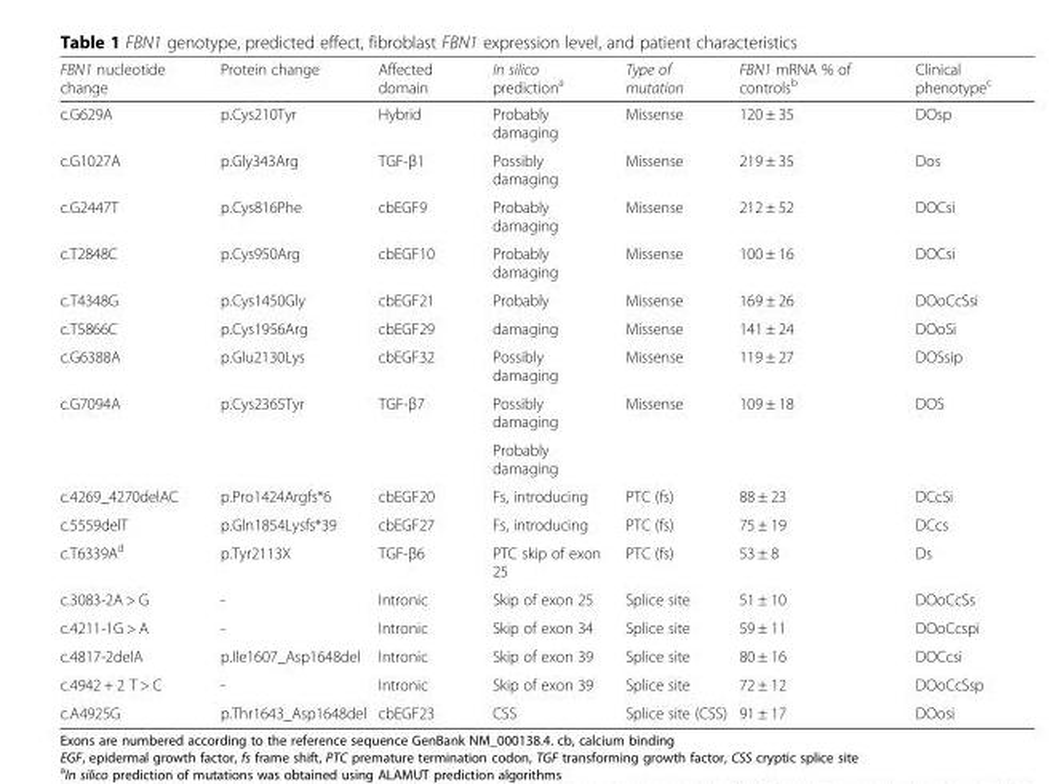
<table><thead><tr><td>FBN1 nucleotide change</td><td>Protein change</td><td>Affected domain</td><td>In silico prediction<sup>a</sup></td><td>Type of mutation</td><td>FBN1 mRNA % of controls<sup>b</sup></td><td>Clinical phenotype<sup>c</sup></td></tr></thead><tbody><tr><td>c.G629A</td><td>p.Cys210Tyr</td><td>Hybrid</td><td>Probably damaging</td><td>Missense</td><td>120 ± 35</td><td>DOsp</td></tr><tr><td>c.G1027A</td><td>p.Gly343Arg</td><td>TGF-β1</td><td>Possibly damaging</td><td>Missense</td><td>219 ± 35</td><td>Dos</td></tr><tr><td>c.G2447T</td><td>p.Cys816Phe</td><td>cbEGF9</td><td>Probably damaging</td><td>Missense</td><td>212 ± 52</td><td>DOCsi</td></tr><tr><td>c.T2848C</td><td>p.Cys950Arg</td><td>cbEGF10</td><td>Probably damaging</td><td>Missense</td><td>100 ± 16</td><td>DOCsi</td></tr><tr><td>c.T4348G</td><td>p.Cys1450Gly</td><td>cbEGF21</td><td>Probably</td><td>Missense</td><td>169 ± 26</td><td>DOoCcSsi</td></tr><tr><td>c.T5866C</td><td>p.Cys1956Arg</td><td>cbEGF29</td><td>damaging</td><td>Missense</td><td>141 ± 24</td><td>DOoSi</td></tr><tr><td>c.G6388A</td><td>p.Glu2130Lys</td><td>cbEGF32</td><td>Possibly damaging</td><td>Missense</td><td>119 ± 27</td><td>DOSsip</td></tr><tr><td rowspan="2">c.G7094A</td><td>p.Cys2365Tyr</td><td>TGF-β7</td><td>Possibly damaging</td><td>Missense</td><td>109 ± 18</td><td>DOS</td></tr><tr><td></td><td></td><td>Probably damaging</td><td></td><td></td><td></td></tr><tr><td>c.4269_4270delAC</td><td>p.Pro1424Argfs*6</td><td>cbEGF20</td><td>Fs, introducing</td><td>PTC (fs)</td><td>88 ± 23</td><td>DCcSi</td></tr><tr><td>c.5559delT</td><td>p.Gln1854Lysfs*39</td><td>cbEGF27</td><td>Fs, introducing</td><td>PTC (fs)</td><td>75 ± 19</td><td>DCcs</td></tr><tr><td>c.T6339A<sup>d</sup></td><td>p.Tyr2113X</td><td>TGF-β6</td><td>PTC skip of exon 25</td><td>PTC (fs)</td><td>53 ± 8</td><td>Ds</td></tr><tr><td>c.3083-2A &gt; G</td><td>-</td><td>Intronic</td><td>Skip of exon 25</td><td>Splice site</td><td>51 ± 10</td><td>DOoCcSs</td></tr><tr><td>c.4211-1G &gt; A</td><td>-</td><td>Intronic</td><td>Skip of exon 34</td><td>Splice site</td><td>59 ± 11</td><td>DOoCcspi</td></tr><tr><td>c.4817-2delA</td><td>p.Ile1607_Asp1648del</td><td>Intronic</td><td>Skip of exon 39</td><td>Splice site</td><td>80 ± 16</td><td>DOCcsi</td></tr><tr><td>c.4942 + 2 T &gt; C</td><td>-</td><td>Intronic</td><td>Skip of exon 39</td><td>Splice site</td><td>72 ± 12</td><td>DOoCcSsp</td></tr><tr><td>c.A4925G</td><td>p.Thr1643_Asp1648del</td><td>cbEGF23</td><td>CSS</td><td>Splice site (CSS)</td><td>91 ± 17</td><td>DOosi</td></tr></tbody></table>